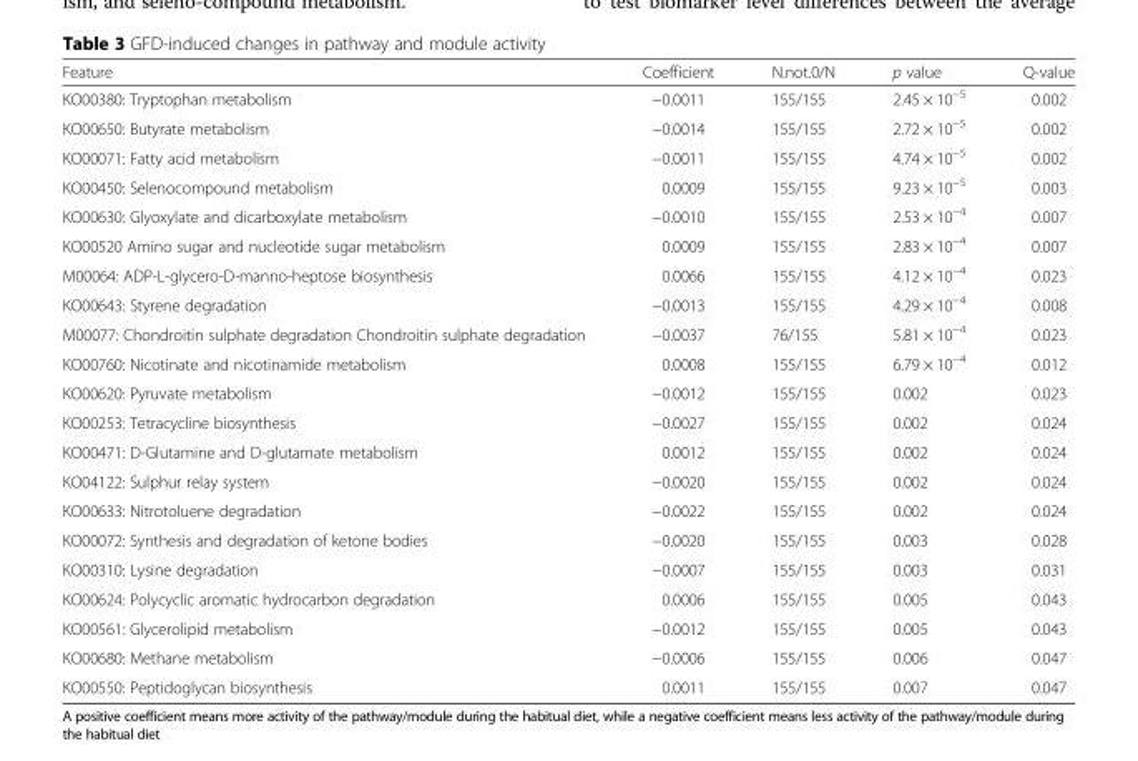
<table><thead><tr><td>Feature</td><td>Coefficient</td><td>N.not.0/N</td><td>p value</td><td>Q-value</td></tr></thead><tbody><tr><td>KO00380: Tryptophan metabolism</td><td>−0.0011</td><td>155/155</td><td>2.45 × 10<sup>−5</sup></td><td>0.002</td></tr><tr><td>KO00650: Butyrate metabolism</td><td>−0.0014</td><td>155/155</td><td>2.72 × 10<sup>−5</sup></td><td>0.002</td></tr><tr><td>KO00071: Fatty acid metabolism</td><td>−0.0011</td><td>155/155</td><td>4.74 × 10<sup>−5</sup></td><td>0.002</td></tr><tr><td>KO00450: Selenocompound metabolism</td><td>0.0009</td><td>155/155</td><td>9.23 × 10<sup>−5</sup></td><td>0.003</td></tr><tr><td>KO00630: Glyoxylate and dicarboxylate metabolism</td><td>−0.0010</td><td>155/155</td><td>2.53 × 10<sup>−4</sup></td><td>0.007</td></tr><tr><td>KO00520 Amino sugar and nucleotide sugar metabolism</td><td>0.0009</td><td>155/155</td><td>2.83 × 10<sup>−4</sup></td><td>0.007</td></tr><tr><td>M00064: ADP-L-glycero-D-manno-heptose biosynthesis</td><td>0.0066</td><td>155/155</td><td>4.12 × 10<sup>−4</sup></td><td>0.023</td></tr><tr><td>KO00643: Styrene degradation</td><td>−0.0013</td><td>155/155</td><td>4.29 × 10<sup>−4</sup></td><td>0.008</td></tr><tr><td>M00077: Chondroitin sulphate degradation Chondroitin sulphate degradation</td><td>−0.0037</td><td>76/155</td><td>5.81 × 10<sup>−4</sup></td><td>0.023</td></tr><tr><td>KO00760: Nicotinate and nicotinamide metabolism</td><td>0.0008</td><td>155/155</td><td>6.79 × 10<sup>−4</sup></td><td>0.012</td></tr><tr><td>KO00620: Pyruvate metabolism</td><td>−0.0012</td><td>155/155</td><td>0.002</td><td>0.023</td></tr><tr><td>KO00253: Tetracycline biosynthesis</td><td>−0.0027</td><td>155/155</td><td>0.002</td><td>0.024</td></tr><tr><td>KO00471: D-Glutamine and D-glutamate metabolism</td><td>0.0012</td><td>155/155</td><td>0.002</td><td>0.024</td></tr><tr><td>KO04122: Sulphur relay system</td><td>−0.0020</td><td>155/155</td><td>0.002</td><td>0.024</td></tr><tr><td>KO00633: Nitrotoluene degradation</td><td>−0.0022</td><td>155/155</td><td>0.002</td><td>0.024</td></tr><tr><td>KO00072: Synthesis and degradation of ketone bodies</td><td>−0.0020</td><td>155/155</td><td>0.003</td><td>0.028</td></tr><tr><td>KO00310: Lysine degradation</td><td>−0.0007</td><td>155/155</td><td>0.003</td><td>0.031</td></tr><tr><td>KO00624: Polycyclic aromatic hydrocarbon degradation</td><td>0.0006</td><td>155/155</td><td>0.005</td><td>0.043</td></tr><tr><td>KO00561: Glycerolipid metabolism</td><td>−0.0012</td><td>155/155</td><td>0.005</td><td>0.043</td></tr><tr><td>KO00680: Methane metabolism</td><td>−0.0006</td><td>155/155</td><td>0.006</td><td>0.047</td></tr><tr><td>KO00550: Peptidoglycan biosynthesis</td><td>0.0011</td><td>155/155</td><td>0.007</td><td>0.047</td></tr></tbody></table>